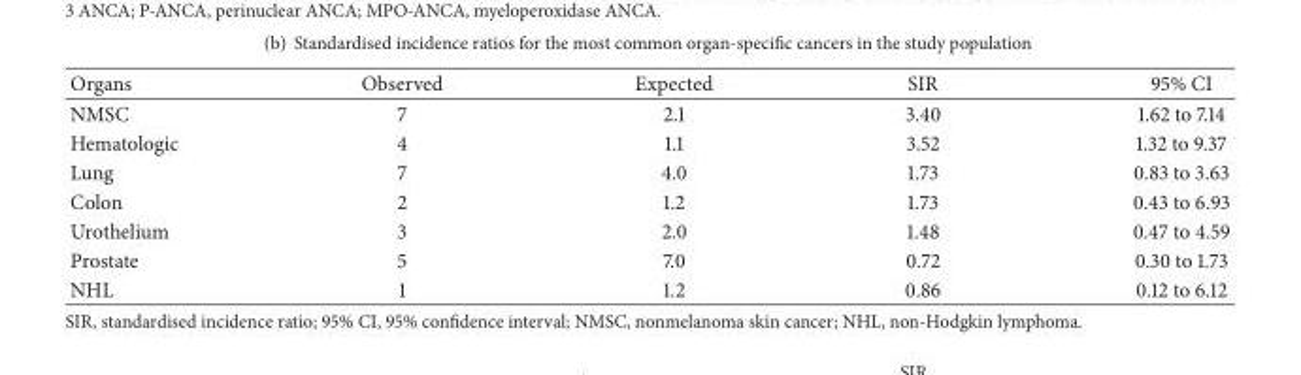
<table><thead><tr><td>Organs</td><td>Observed</td><td>Expected</td><td>SIR</td><td>95% CI</td></tr></thead><tbody><tr><td>NMSC</td><td>7</td><td>2.1</td><td>3.40</td><td>1.62 to 7.14</td></tr><tr><td>Hematologic</td><td>4</td><td>1.1</td><td>3.52</td><td>1.32 to 9.37</td></tr><tr><td>Lung</td><td>7</td><td>4.0</td><td>1.73</td><td>0.83 to 3.63</td></tr><tr><td>Colon</td><td>2</td><td>1.2</td><td>1.73</td><td>0.43 to 6.93</td></tr><tr><td>Urothelium</td><td>3</td><td>2.0</td><td>1.48</td><td>0.47 to 4.59</td></tr><tr><td>Prostate</td><td>5</td><td>7.0</td><td>0.72</td><td>0.30 to 1.73</td></tr><tr><td>NHL</td><td>1</td><td>1.2</td><td>0.86</td><td>0.12 to 6.12</td></tr></tbody></table>